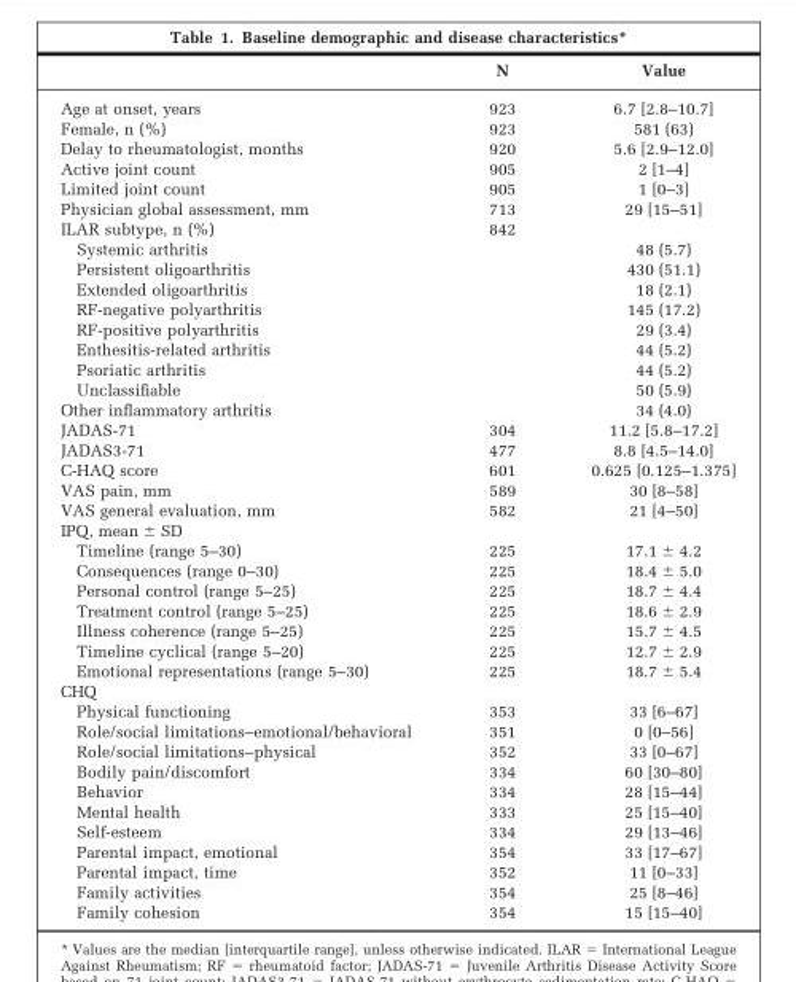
<table><thead><tr><td></td><td>N</td><td>Value</td></tr></thead><tbody><tr><td>Age at onset, years</td><td>923</td><td>6.7 [2.8–10.7]</td></tr><tr><td>Female, n (%)</td><td>923</td><td>581 (63)</td></tr><tr><td>Delay to rheumatologist, months</td><td>920</td><td>5.6 [2.9–12.0]</td></tr><tr><td>Active joint count</td><td>905</td><td>2 [1–4]</td></tr><tr><td>Limited joint count</td><td>905</td><td>1 [0–3]</td></tr><tr><td>Physician global assessment, mm</td><td>713</td><td>29 [15–51]</td></tr><tr><td>ILAR subtype, n (%)</td><td>842</td><td></td></tr><tr><td>Systemic arthritis</td><td></td><td>48 (5.7)</td></tr><tr><td>Persistent oligoarthritis</td><td></td><td>430 (51.1)</td></tr><tr><td>Extended oligoarthritis</td><td></td><td>18 (2.1)</td></tr><tr><td>RF-negative polyarthritis</td><td></td><td>145 (17.2)</td></tr><tr><td>RF-positive polyarthritis</td><td></td><td>29 (3.4)</td></tr><tr><td>Enthesitis-related arthritis</td><td></td><td>44 (5.2)</td></tr><tr><td>Psoriatic arthritis</td><td></td><td>44 (5.2)</td></tr><tr><td>Unclassifiable</td><td></td><td>50 (5.9)</td></tr><tr><td>Other inflammatory arthritis</td><td></td><td>34 (4.0)</td></tr><tr><td>JADAS-71</td><td>304</td><td>11.2 [5.8–17.2]</td></tr><tr><td>JADAS3-71</td><td>477</td><td>8.8 [4.5–14.0]</td></tr><tr><td>C-HAQ score</td><td>601</td><td>0.625 [0.125–1.375]</td></tr><tr><td>VAS pain, mm</td><td>589</td><td>30 [8–58]</td></tr><tr><td>VAS general evaluation, mm</td><td>582</td><td>21 [4–50]</td></tr><tr><td colspan="3">IPQ, mean ± SD</td></tr><tr><td>Timeline (range 5–30)</td><td>225</td><td>17.1 ± 4.2</td></tr><tr><td>Consequences (range 0–30)</td><td>225</td><td>18.4 ± 5.0</td></tr><tr><td>Personal control (range 5–25)</td><td>225</td><td>18.7 ± 4.4</td></tr><tr><td>Treatment control (range 5–25)</td><td>225</td><td>18.6 ± 2.9</td></tr><tr><td>Illness coherence (range 5–25)</td><td>225</td><td>15.7 ± 4.5</td></tr><tr><td>Timeline cyclical (range 5–20)</td><td>225</td><td>12.7 ± 2.9</td></tr><tr><td>Emotional representations (range 5–30)</td><td>225</td><td>18.7 ± 5.4</td></tr><tr><td colspan="3">CHQ</td></tr><tr><td>Physical functioning</td><td>353</td><td>33 [6–67]</td></tr><tr><td>Role/social limitations–emotional/behavioral</td><td>351</td><td>0 [0–56]</td></tr><tr><td>Role/social limitations–physical</td><td>352</td><td>33 [0–67]</td></tr><tr><td>Bodily pain/discomfort</td><td>334</td><td>60 [30–80]</td></tr><tr><td>Behavior</td><td>334</td><td>28 [15–44]</td></tr><tr><td>Mental health</td><td>333</td><td>25 [15–40]</td></tr><tr><td>Self-esteem</td><td>334</td><td>29 [13–46]</td></tr><tr><td>Parental impact, emotional</td><td>354</td><td>33 [17–67]</td></tr><tr><td>Parental impact, time</td><td>352</td><td>11 [0–33]</td></tr><tr><td>Family activities</td><td>354</td><td>25 [8–46]</td></tr><tr><td>Family cohesion</td><td>354</td><td>15 [15–40]</td></tr></tbody></table>